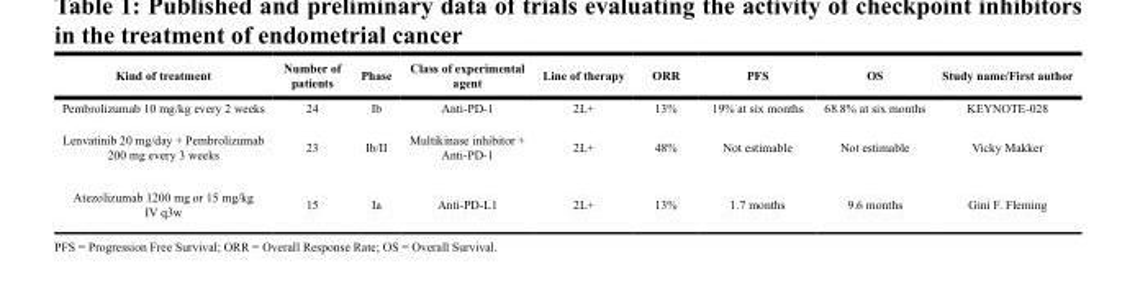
<table><thead><tr><td>Kind of treatment</td><td>Number of patients</td><td>Phase</td><td>Class of experimental agent</td><td>Line of therapy</td><td>ORR</td><td>PFS</td><td>OS</td><td>Study name/First author</td></tr></thead><tbody><tr><td>Pembrolizumab 10 mg/kg every 2 weeks</td><td>24</td><td>Ib</td><td>Anti-PD-1</td><td>2L+</td><td>13%</td><td>19% at six months</td><td>68.8% at six months</td><td>KEYNOTE-028</td></tr><tr><td>Lenvatinib 20 mg/day + Pembrolizumab 200 mg every 3 weeks</td><td>23</td><td>Ib/II</td><td>Multikinase inhibitor + Anti-PD-1</td><td>2L+</td><td>48%</td><td>Not estimable</td><td>Not estimable</td><td>Vicky Makker</td></tr><tr><td>Atezolizumab 1200 mg or 15 mg/kg IV q3w</td><td>15</td><td>Ia</td><td>Anti-PD-L1</td><td>2L+</td><td>13%</td><td>1.7 months</td><td>9.6 months</td><td>Gini F. Fleming</td></tr></tbody></table>